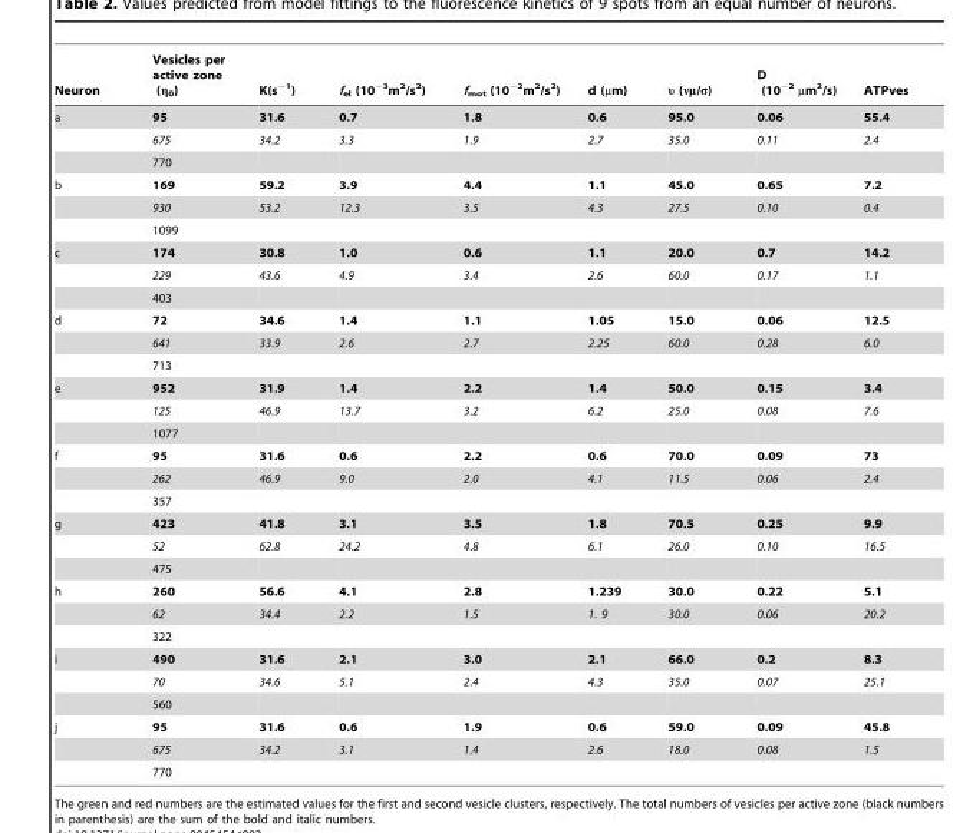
<table><thead><tr><td>Neuron</td><td>Vesicles per active zone (η<sub>0</sub>)</td><td>K(s<sup>−1</sup>)</td><td>f<sub>el</sub> (10<sup>−3</sup>m<sup>2</sup>/s<sup>2</sup>)</td><td>f<sub>mot</sub> (10<sup>−2</sup>m<sup>2</sup>/s<sup>2</sup>)</td><td>d (µm)</td><td>υ (νμ/σ)</td><td>D (10<sup>−2</sup> µm<sup>2</sup>/s)</td><td>ATPves</td></tr></thead><tbody><tr><td rowspan="3">a</td><td>95</td><td>31.6</td><td>0.7</td><td>1.8</td><td>0.6</td><td>95.0</td><td>0.06</td><td>55.4</td></tr><tr><td>675</td><td>34.2</td><td>3.3</td><td>1.9</td><td>2.7</td><td>35.0</td><td>0.11</td><td>2.4</td></tr><tr><td>770</td><td></td><td></td><td></td><td></td><td></td><td></td><td></td></tr><tr><td rowspan="3">b</td><td>169</td><td>59.2</td><td>3.9</td><td>4.4</td><td>1.1</td><td>45.0</td><td>0.65</td><td>7.2</td></tr><tr><td>930</td><td>53.2</td><td>12.3</td><td>3.5</td><td>4.3</td><td>27.5</td><td>0.10</td><td>0.4</td></tr><tr><td>1099</td><td></td><td></td><td></td><td></td><td></td><td></td><td></td></tr><tr><td rowspan="3">c</td><td>174</td><td>30.8</td><td>1.0</td><td>0.6</td><td>1.1</td><td>20.0</td><td>0.7</td><td>14.2</td></tr><tr><td>229</td><td>43.6</td><td>4.9</td><td>3.4</td><td>2.6</td><td>60.0</td><td>0.17</td><td>1.1</td></tr><tr><td>403</td><td></td><td></td><td></td><td></td><td></td><td></td><td></td></tr><tr><td rowspan="3">d</td><td>72</td><td>34.6</td><td>1.4</td><td>1.1</td><td>1.05</td><td>15.0</td><td>0.06</td><td>12.5</td></tr><tr><td>641</td><td>33.9</td><td>2.6</td><td>2.7</td><td>2.25</td><td>60.0</td><td>0.28</td><td>6.0</td></tr><tr><td>713</td><td></td><td></td><td></td><td></td><td></td><td></td><td></td></tr><tr><td rowspan="3">e</td><td>952</td><td>31.9</td><td>1.4</td><td>2.2</td><td>1.4</td><td>50.0</td><td>0.15</td><td>3.4</td></tr><tr><td>125</td><td>46.9</td><td>13.7</td><td>3.2</td><td>6.2</td><td>25.0</td><td>0.08</td><td>7.6</td></tr><tr><td>1077</td><td></td><td></td><td></td><td></td><td></td><td></td><td></td></tr><tr><td rowspan="3">f</td><td>95</td><td>31.6</td><td>0.6</td><td>2.2</td><td>0.6</td><td>70.0</td><td>0.09</td><td>73</td></tr><tr><td>262</td><td>46.9</td><td>9.0</td><td>2.0</td><td>4.1</td><td>11.5</td><td>0.06</td><td>2.4</td></tr><tr><td>357</td><td></td><td></td><td></td><td></td><td></td><td></td><td></td></tr><tr><td rowspan="3">g</td><td>423</td><td>41.8</td><td>3.1</td><td>3.5</td><td>1.8</td><td>70.5</td><td>0.25</td><td>9.9</td></tr><tr><td>52</td><td>62.8</td><td>24.2</td><td>4.8</td><td>6.1</td><td>26.0</td><td>0.10</td><td>16.5</td></tr><tr><td>475</td><td></td><td></td><td></td><td></td><td></td><td></td><td></td></tr><tr><td rowspan="3">h</td><td>260</td><td>56.6</td><td>4.1</td><td>2.8</td><td>1.239</td><td>30.0</td><td>0.22</td><td>5.1</td></tr><tr><td>62</td><td>34.4</td><td>2.2</td><td>1.5</td><td>1. 9</td><td>30.0</td><td>0.06</td><td>20.2</td></tr><tr><td>322</td><td></td><td></td><td></td><td></td><td></td><td></td><td></td></tr><tr><td rowspan="3">i</td><td>490</td><td>31.6</td><td>2.1</td><td>3.0</td><td>2.1</td><td>66.0</td><td>0.2</td><td>8.3</td></tr><tr><td>70</td><td>34.6</td><td>5.1</td><td>2.4</td><td>4.3</td><td>35.0</td><td>0.07</td><td>25.1</td></tr><tr><td>560</td><td></td><td></td><td></td><td></td><td></td><td></td><td></td></tr><tr><td rowspan="3">j</td><td>95</td><td>31.6</td><td>0.6</td><td>1.9</td><td>0.6</td><td>59.0</td><td>0.09</td><td>45.8</td></tr><tr><td>675</td><td>34.2</td><td>3.1</td><td>1.4</td><td>2.6</td><td>18.0</td><td>0.08</td><td>1.5</td></tr><tr><td>770</td><td></td><td></td><td></td><td></td><td></td><td></td><td></td></tr></tbody></table>